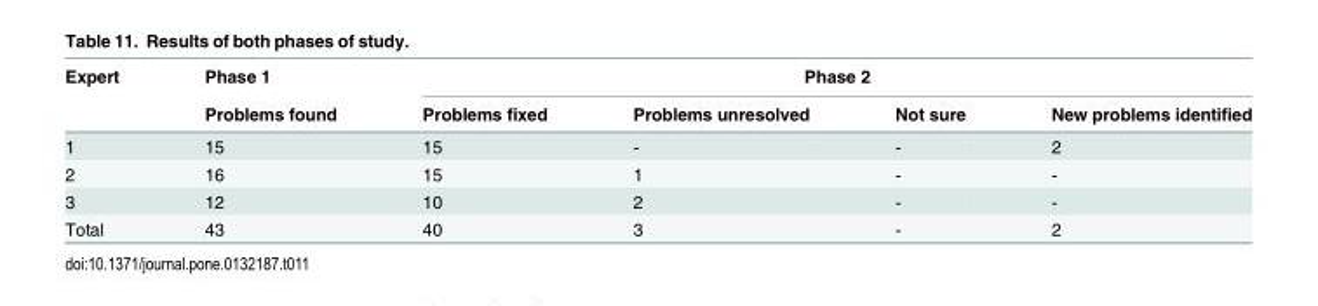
<table><thead><tr><td rowspan="2">Expert</td><td rowspan="2">Phase 1 Problems found</td><td colspan="4">Phase 2</td></tr><tr><td>Problems fixed</td><td>Problems unresolved</td><td>Not sure</td><td>New problems identified</td></tr></thead><tbody><tr><td>1</td><td>15</td><td>15</td><td>-</td><td>-</td><td>2</td></tr><tr><td>2</td><td>16</td><td>15</td><td>1</td><td>-</td><td>-</td></tr><tr><td>3</td><td>12</td><td>10</td><td>2</td><td>-</td><td>-</td></tr><tr><td>Total</td><td>43</td><td>40</td><td>3</td><td>-</td><td>2</td></tr></tbody></table>